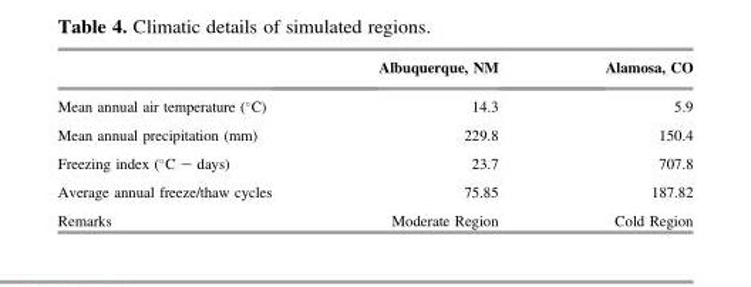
<table><thead><tr><td></td><td>Albuquerque, NM</td><td>Alamosa, CO</td></tr></thead><tbody><tr><td>Mean annual air temperature (°C)</td><td>14.3</td><td>5.9</td></tr><tr><td>Mean annual precipitation (mm)</td><td>229.8</td><td>150.4</td></tr><tr><td>Freezing index (°C – days)</td><td>23.7</td><td>707.8</td></tr><tr><td>Average annual freeze/thaw cycles</td><td>75.85</td><td>187.82</td></tr><tr><td>Remarks</td><td>Moderate Region</td><td>Cold Region</td></tr></tbody></table>